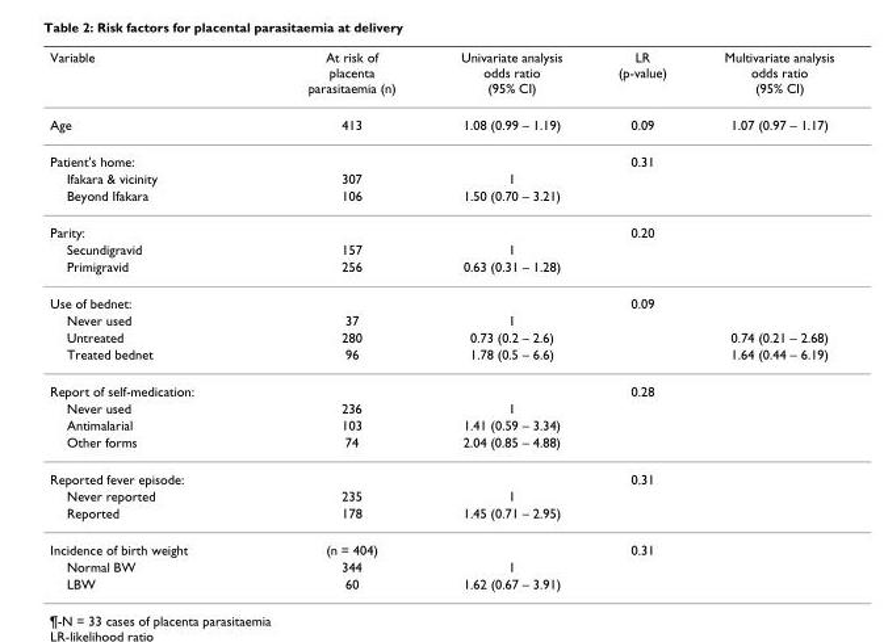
<table><thead><tr><td>Variable</td><td>At risk of placenta parasitaemia (n)</td><td>Univariate analysis odds ratio (95% CI)</td><td>LR (p-value)</td><td>Multivariate analysis odds ratio (95% CI)</td></tr></thead><tbody><tr><td>Age</td><td>413</td><td>1.08 (0.99 – 1.19)</td><td>0.09</td><td>1.07 (0.97 – 1.17)</td></tr><tr><td>Patient&#x27;s home:</td><td></td><td></td><td>0.31</td><td></td></tr><tr><td>Ifakara &amp; vicinity</td><td>307</td><td>1</td><td></td><td></td></tr><tr><td>Beyond Ifakara</td><td>106</td><td>1.50 (0.70 – 3.21)</td><td></td><td></td></tr><tr><td>Parity:</td><td></td><td></td><td>0.20</td><td></td></tr><tr><td>Secundigravid</td><td>157</td><td>1</td><td></td><td></td></tr><tr><td>Primigravid</td><td>256</td><td>0.63 (0.31 – 1.28)</td><td></td><td></td></tr><tr><td>Use of bednet:</td><td></td><td></td><td>0.09</td><td></td></tr><tr><td>Never used</td><td>37</td><td>1</td><td></td><td></td></tr><tr><td>Untreated</td><td>280</td><td>0.73 (0.2 – 2.6)</td><td></td><td>0.74 (0.21 – 2.68)</td></tr><tr><td>Treated bednet</td><td>96</td><td>1.78 (0.5 – 6.6)</td><td></td><td>1.64 (0.44 – 6.19)</td></tr><tr><td>Report of self-medication:</td><td></td><td></td><td>0.28</td><td></td></tr><tr><td>Never used</td><td>236</td><td>1</td><td></td><td></td></tr><tr><td>Antimalarial</td><td>103</td><td>1.41 (0.59 – 3.34)</td><td></td><td></td></tr><tr><td>Other forms</td><td>74</td><td>2.04 (0.85 – 4.88)</td><td></td><td></td></tr><tr><td>Reported fever episode:</td><td></td><td></td><td>0.31</td><td></td></tr><tr><td>Never reported</td><td>235</td><td>1</td><td></td><td></td></tr><tr><td>Reported</td><td>178</td><td>1.45 (0.71 – 2.95)</td><td></td><td></td></tr><tr><td>Incidence of birth weight</td><td>(n = 404)</td><td></td><td>0.31</td><td></td></tr><tr><td>Normal BW</td><td>344</td><td>1</td><td></td><td></td></tr><tr><td>LBW</td><td>60</td><td>1.62 (0.67 – 3.91)</td><td></td><td></td></tr></tbody></table>